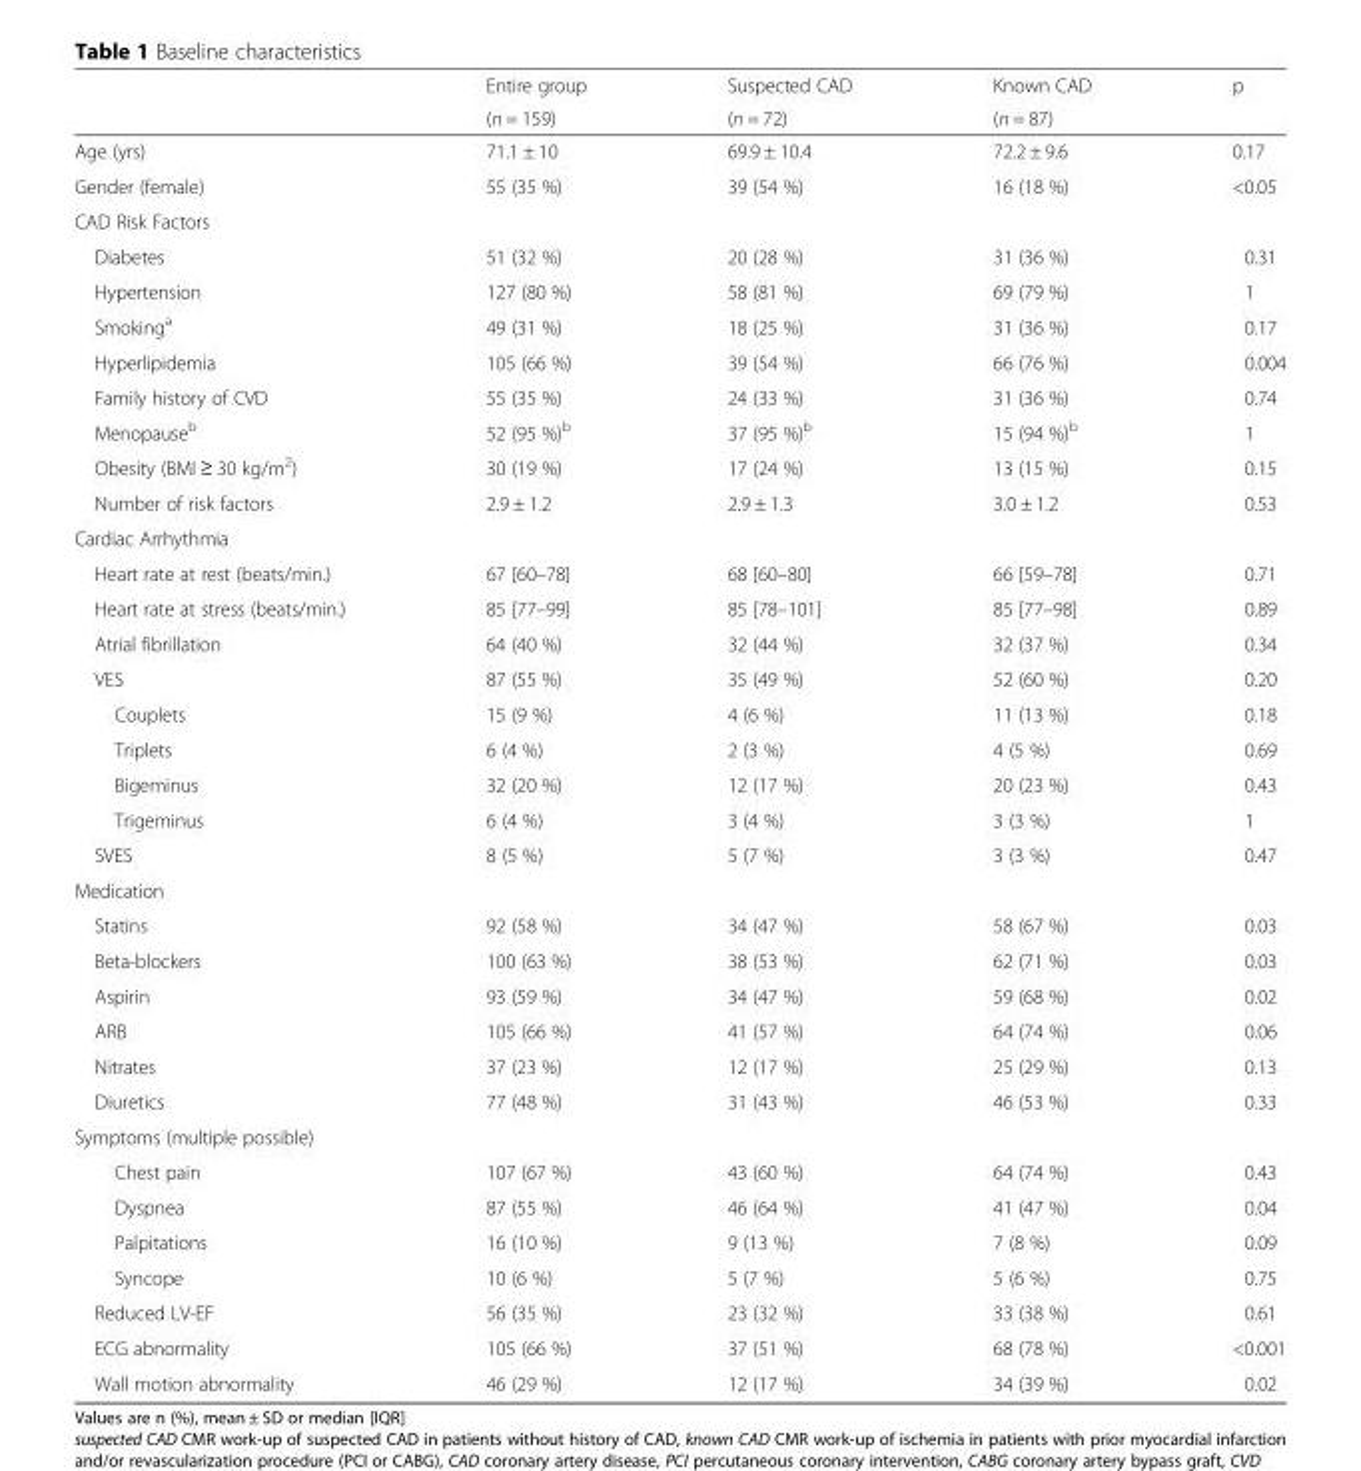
<table><thead><tr><td rowspan="2"></td><td rowspan="2">Entire group (n = 159)</td><td rowspan="2">Suspected CAD (n = 72)</td><td rowspan="2">Known CAD (n = 87)</td><td rowspan="2">p</td></tr><tr></tr></thead><tbody><tr><td>Age (yrs)</td><td>71.1 ± 10</td><td>69.9 ± 10.4</td><td>72.2 ± 9.6</td><td>0.17</td></tr><tr><td>Gender (female)</td><td>55 (35 %)</td><td>39 (54 %)</td><td>16 (18 %)</td><td>&lt;0.05</td></tr><tr><td colspan="5">CAD Risk Factors</td></tr><tr><td>Diabetes</td><td>51 (32 %)</td><td>20 (28 %)</td><td>31 (36 %)</td><td>0.31</td></tr><tr><td>Hypertension</td><td>127 (80 %)</td><td>58 (81 %)</td><td>69 (79 %)</td><td>1</td></tr><tr><td>Smoking<sup>a</sup></td><td>49 (31 %)</td><td>18 (25 %)</td><td>31 (36 %)</td><td>0.17</td></tr><tr><td>Hyperlipidemia</td><td>105 (66 %)</td><td>39 (54 %)</td><td>66 (76 %)</td><td>0.004</td></tr><tr><td>Family history of CVD</td><td>55 (35 %)</td><td>24 (33 %)</td><td>31 (36 %)</td><td>0.74</td></tr><tr><td>Menopause<sup>b</sup></td><td>52 (95 %)<sup>b</sup></td><td>37 (95 %)<sup>b</sup></td><td>15 (94 %)<sup>b</sup></td><td>1</td></tr><tr><td>Obesity (BMI ≥ 30 kg/m<sup>2</sup>)</td><td>30 (19 %)</td><td>17 (24 %)</td><td>13 (15 %)</td><td>0.15</td></tr><tr><td>Number of risk factors</td><td>2.9 ± 1.2</td><td>2.9 ± 1.3</td><td>3.0 ± 1.2</td><td>0.53</td></tr><tr><td colspan="5">Cardiac Arrhythmia</td></tr><tr><td>Heart rate at rest (beats/min.)</td><td>67 [60–78]</td><td>68 [60–80]</td><td>66 [59–78]</td><td>0.71</td></tr><tr><td>Heart rate at stress (beats/min.)</td><td>85 [77–99]</td><td>85 [78–101]</td><td>85 [77–98]</td><td>0.89</td></tr><tr><td>Atrial fibrillation</td><td>64 (40 %)</td><td>32 (44 %)</td><td>32 (37 %)</td><td>0.34</td></tr><tr><td>VES</td><td>87 (55 %)</td><td>35 (49 %)</td><td>52 (60 %)</td><td>0.20</td></tr><tr><td>Couplets</td><td>15 (9 %)</td><td>4 (6 %)</td><td>11 (13 %)</td><td>0.18</td></tr><tr><td>Triplets</td><td>6 (4 %)</td><td>2 (3 %)</td><td>4 (5 %)</td><td>0.69</td></tr><tr><td>Bigeminus</td><td>32 (20 %)</td><td>12 (17 %)</td><td>20 (23 %)</td><td>0.43</td></tr><tr><td>Trigeminus</td><td>6 (4 %)</td><td>3 (4 %)</td><td>3 (3 %)</td><td>1</td></tr><tr><td>SVES</td><td>8 (5 %)</td><td>5 (7 %)</td><td>3 (3 %)</td><td>0.47</td></tr><tr><td colspan="5">Medication</td></tr><tr><td>Statins</td><td>92 (58 %)</td><td>34 (47 %)</td><td>58 (67 %)</td><td>0.03</td></tr><tr><td>Beta-blockers</td><td>100 (63 %)</td><td>38 (53 %)</td><td>62 (71 %)</td><td>0.03</td></tr><tr><td>Aspirin</td><td>93 (59 %)</td><td>34 (47 %)</td><td>59 (68 %)</td><td>0.02</td></tr><tr><td>ARB</td><td>105 (66 %)</td><td>41 (57 %)</td><td>64 (74 %)</td><td>0.06</td></tr><tr><td>Nitrates</td><td>37 (23 %)</td><td>12 (17 %)</td><td>25 (29 %)</td><td>0.13</td></tr><tr><td>Diuretics</td><td>77 (48 %)</td><td>31 (43 %)</td><td>46 (53 %)</td><td>0.33</td></tr><tr><td colspan="5">Symptoms (multiple possible)</td></tr><tr><td>Chest pain</td><td>107 (67 %)</td><td>43 (60 %)</td><td>64 (74 %)</td><td>0.43</td></tr><tr><td>Dyspnea</td><td>87 (55 %)</td><td>46 (64 %)</td><td>41 (47 %)</td><td>0.04</td></tr><tr><td>Palpitations</td><td>16 (10 %)</td><td>9 (13 %)</td><td>7 (8 %)</td><td>0.09</td></tr><tr><td>Syncope</td><td>10 (6 %)</td><td>5 (7 %)</td><td>5 (6 %)</td><td>0.75</td></tr><tr><td>Reduced LV-EF</td><td>56 (35 %)</td><td>23 (32 %)</td><td>33 (38 %)</td><td>0.61</td></tr><tr><td>ECG abnormality</td><td>105 (66 %)</td><td>37 (51 %)</td><td>68 (78 %)</td><td>&lt;0.001</td></tr><tr><td>Wall motion abnormality</td><td>46 (29 %)</td><td>12 (17 %)</td><td>34 (39 %)</td><td>0.02</td></tr></tbody></table>